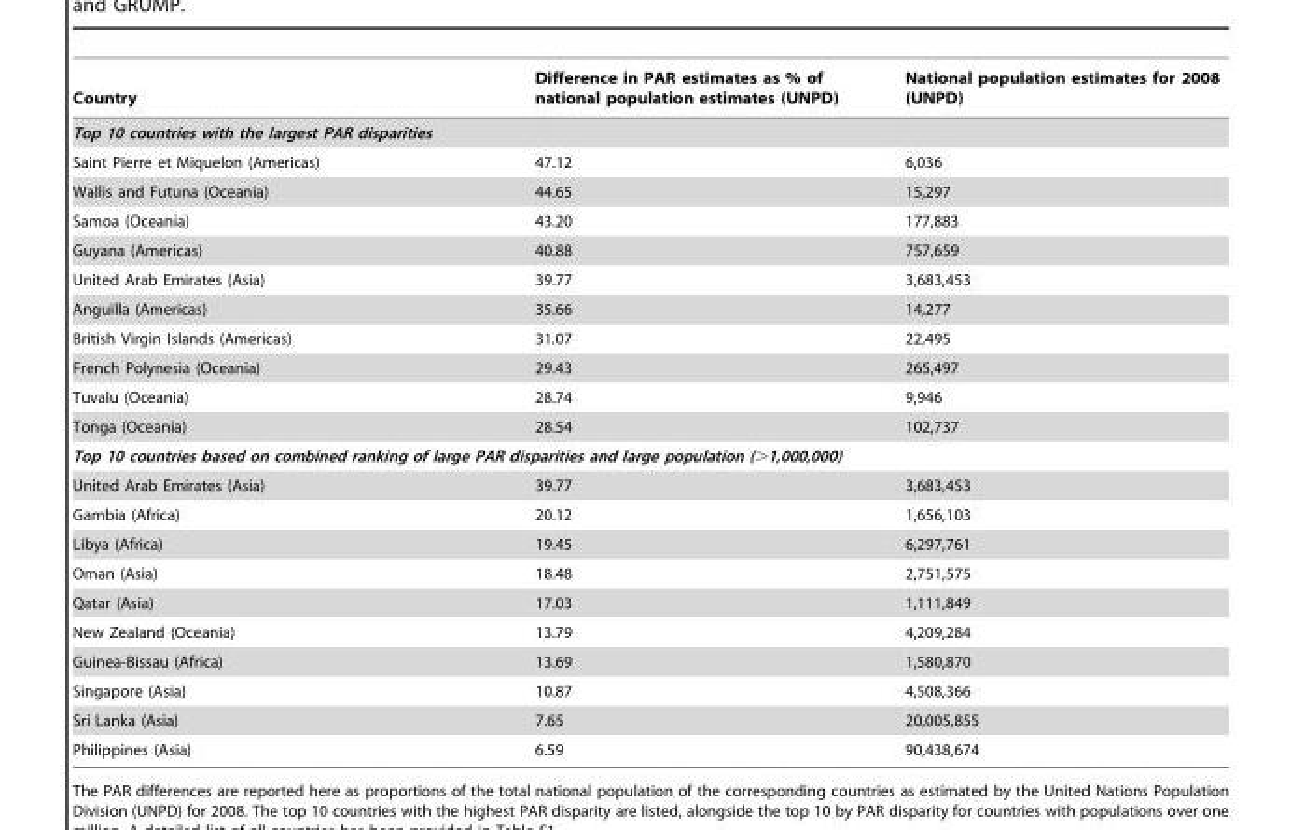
<table><thead><tr><td>Country</td><td>Difference in PAR estimates as % of national population estimates (UNPD)</td><td>National population estimates for 2008 (UNPD)</td></tr></thead><tbody><tr><td colspan="3">Top 10 countries with the largest PAR disparities</td></tr><tr><td>Saint Pierre et Miquelon (Americas)</td><td>47.12</td><td>6,036</td></tr><tr><td>Wallis and Futuna (Oceania)</td><td>44.65</td><td>15,297</td></tr><tr><td>Samoa (Oceania)</td><td>43.20</td><td>177,883</td></tr><tr><td>Guyana (Americas)</td><td>40.88</td><td>757,659</td></tr><tr><td>United Arab Emirates (Asia)</td><td>39.77</td><td>3,683,453</td></tr><tr><td>Anguilla (Americas)</td><td>35.66</td><td>14,277</td></tr><tr><td>British Virgin Islands (Americas)</td><td>31.07</td><td>22,495</td></tr><tr><td>French Polynesia (Oceania)</td><td>29.43</td><td>265,497</td></tr><tr><td>Tuvalu (Oceania)</td><td>28.74</td><td>9,946</td></tr><tr><td>Tonga (Oceania)</td><td>28.54</td><td>102,737</td></tr><tr><td colspan="3">Top 10 countries based on combined ranking of large PAR disparities and large population (&gt;1,000,000)</td></tr><tr><td>United Arab Emirates (Asia)</td><td>39.77</td><td>3,683,453</td></tr><tr><td>Gambia (Africa)</td><td>20.12</td><td>1,656,103</td></tr><tr><td>Libya (Africa)</td><td>19.45</td><td>6,297,761</td></tr><tr><td>Oman (Asia)</td><td>18.48</td><td>2,751,575</td></tr><tr><td>Qatar (Asia)</td><td>17.03</td><td>1,111,849</td></tr><tr><td>New Zealand (Oceania)</td><td>13.79</td><td>4,209,284</td></tr><tr><td>Guinea-Bissau (Africa)</td><td>13.69</td><td>1,580,870</td></tr><tr><td>Singapore (Asia)</td><td>10.87</td><td>4,508,366</td></tr><tr><td>Sri Lanka (Asia)</td><td>7.65</td><td>20,005,855</td></tr><tr><td>Philippines (Asia)</td><td>6.59</td><td>90,438,674</td></tr></tbody></table>